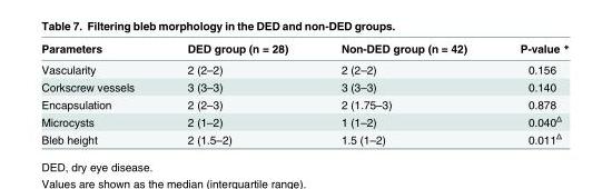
<table><thead><tr><td>Parameters</td><td>DED group (n = 28)</td><td>Non-DED group (n = 42)</td><td>P-value *</td></tr></thead><tbody><tr><td>Vascularity</td><td>2 (2–2)</td><td>2 (2–2)</td><td>0.156</td></tr><tr><td>Corkscrew vessels</td><td>3 (3–3)</td><td>3 (3–3)</td><td>0.140</td></tr><tr><td>Encapsulation</td><td>2 (2–3)</td><td>2 (1.75–3)</td><td>0.878</td></tr><tr><td>Microcysts</td><td>2 (1–2)</td><td>1 (1–2)</td><td>0.040<sup>Δ</sup></td></tr><tr><td>Bleb height</td><td>2 (1.5–2)</td><td>1.5 (1–2)</td><td>0.011<sup>Δ</sup></td></tr></tbody></table>